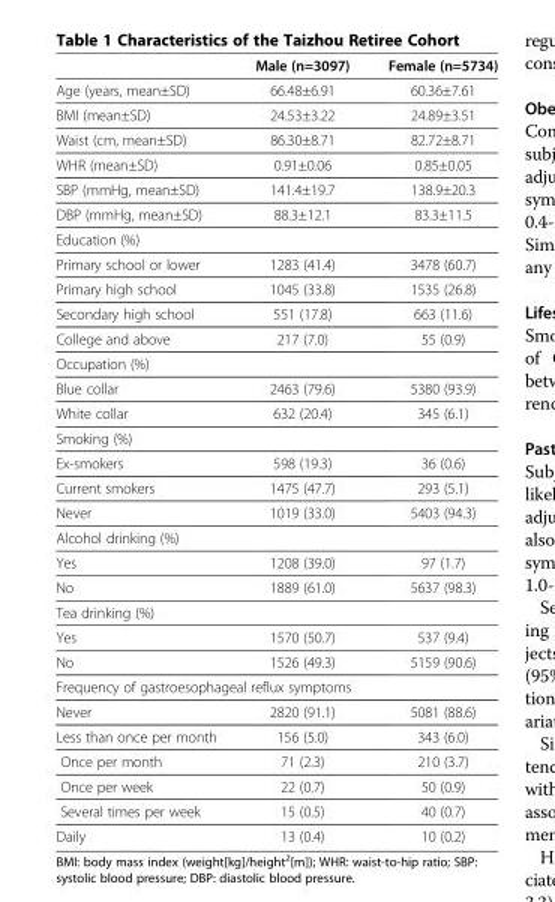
<table><thead><tr><td></td><td>Male (n=3097)</td><td>Female (n=5734)</td></tr></thead><tbody><tr><td>Age (years, mean±SD)</td><td>66.48±6.91</td><td>60.36±7.61</td></tr><tr><td>BMI (mean±SD)</td><td>24.53±3.22</td><td>24.89±3.51</td></tr><tr><td>Waist (cm, mean±SD)</td><td>86.30±8.71</td><td>82.72±8.71</td></tr><tr><td>WHR (mean±SD)</td><td>0.91±0.06</td><td>0.85±0.05</td></tr><tr><td>SBP (mmHg, mean±SD)</td><td>141.4±19.7</td><td>138.9±20.3</td></tr><tr><td>DBP (mmHg, mean±SD)</td><td>88.3±12.1</td><td>83.3±11.5</td></tr><tr><td colspan="3">Education (%)</td></tr><tr><td>Primary school or lower</td><td>1283 (41.4)</td><td>3478 (60.7)</td></tr><tr><td>Primary high school</td><td>1045 (33.8)</td><td>1535 (26.8)</td></tr><tr><td>Secondary high school</td><td>551 (17.8)</td><td>663 (11.6)</td></tr><tr><td>College and above</td><td>217 (7.0)</td><td>55 (0.9)</td></tr><tr><td colspan="3">Occupation (%)</td></tr><tr><td>Blue collar</td><td>2463 (79.6)</td><td>5380 (93.9)</td></tr><tr><td>White collar</td><td>632 (20.4)</td><td>345 (6.1)</td></tr><tr><td colspan="3">Smoking (%)</td></tr><tr><td>Ex-smokers</td><td>598 (19.3)</td><td>36 (0.6)</td></tr><tr><td>Current smokers</td><td>1475 (47.7)</td><td>293 (5.1)</td></tr><tr><td>Never</td><td>1019 (33.0)</td><td>5403 (94.3)</td></tr><tr><td colspan="3">Alcohol drinking (%)</td></tr><tr><td>Yes</td><td>1208 (39.0)</td><td>97 (1.7)</td></tr><tr><td>No</td><td>1889 (61.0)</td><td>5637 (98.3)</td></tr><tr><td colspan="3">Tea drinking (%)</td></tr><tr><td>Yes</td><td>1570 (50.7)</td><td>537 (9.4)</td></tr><tr><td>No</td><td>1526 (49.3)</td><td>5159 (90.6)</td></tr><tr><td colspan="3">Frequency of gastroesophageal reflux symptoms</td></tr><tr><td>Never</td><td>2820 (91.1)</td><td>5081 (88.6)</td></tr><tr><td>Less than once per month</td><td>156 (5.0)</td><td>343 (6.0)</td></tr><tr><td>Once per month</td><td>71 (2.3)</td><td>210 (3.7)</td></tr><tr><td>Once per week</td><td>22 (0.7)</td><td>50 (0.9)</td></tr><tr><td>Several times per week</td><td>15 (0.5)</td><td>40 (0.7)</td></tr><tr><td>Daily</td><td>13 (0.4)</td><td>10 (0.2)</td></tr></tbody></table>